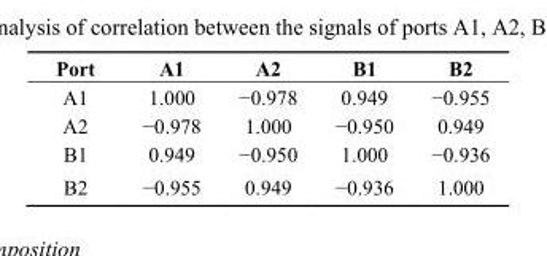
<table><thead><tr><td>Port</td><td>A1</td><td>A2</td><td>B1</td><td>B2</td></tr></thead><tbody><tr><td>A1</td><td>1.000</td><td>−0.978</td><td>0.949</td><td>−0.955</td></tr><tr><td>A2</td><td>−0.978</td><td>1.000</td><td>−0.950</td><td>0.949</td></tr><tr><td>B1</td><td>0.949</td><td>−0.950</td><td>1.000</td><td>−0.936</td></tr><tr><td>B2</td><td>−0.955</td><td>0.949</td><td>−0.936</td><td>1.000</td></tr></tbody></table>